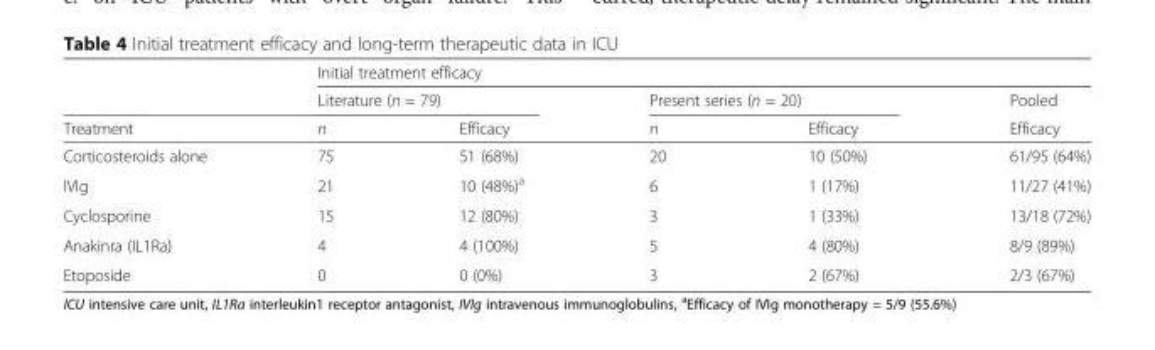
<table><thead><tr><td rowspan="3">Treatment</td><td colspan="5">Initial treatment efficacy</td></tr><tr><td colspan="2">Literature (n = 79)</td><td colspan="2">Present series (n = 20)</td><td rowspan="2">Pooled Efficacy</td></tr><tr><td>n</td><td>Efficacy</td><td>n</td><td>Efficacy</td></tr></thead><tbody><tr><td>Corticosteroids alone</td><td>75</td><td>51 (68%)</td><td>20</td><td>10 (50%)</td><td>61/95 (64%)</td></tr><tr><td>IVIg</td><td>21</td><td>10 (48%)<sup>a</sup></td><td>6</td><td>1 (17%)</td><td>11/27 (41%)</td></tr><tr><td>Cyclosporine</td><td>15</td><td>12 (80%)</td><td>3</td><td>1 (33%)</td><td>13/18 (72%)</td></tr><tr><td>Anakinra (IL1Ra)</td><td>4</td><td>4 (100%)</td><td>5</td><td>4 (80%)</td><td>8/9 (89%)</td></tr><tr><td>Etoposide</td><td>0</td><td>0 (0%)</td><td>3</td><td>2 (67%)</td><td>2/3 (67%)</td></tr></tbody></table>